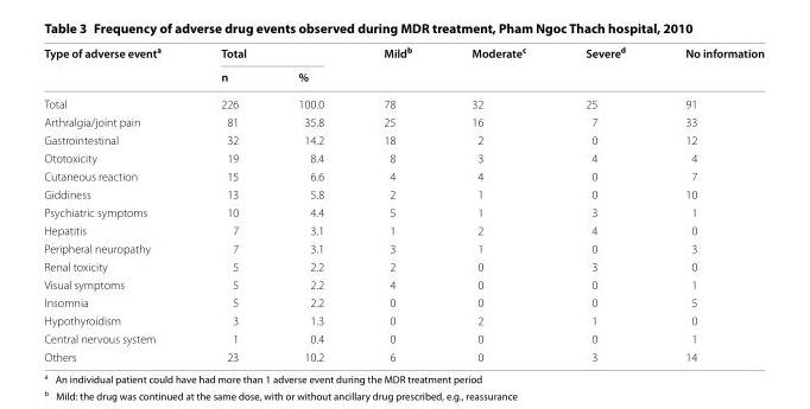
<table><thead><tr><td rowspan="2">Type of adverse event<sup>a</sup></td><td colspan="2">Total</td><td rowspan="2">Mild<sup>b</sup></td><td rowspan="2">Moderate<sup>c</sup></td><td rowspan="2">Severe<sup>d</sup></td><td rowspan="2">No information</td></tr><tr><td>n</td><td>%</td></tr></thead><tbody><tr><td>Total</td><td>226</td><td>100.0</td><td>78</td><td>32</td><td>25</td><td>91</td></tr><tr><td>Arthralgia/joint pain</td><td>81</td><td>35.8</td><td>25</td><td>16</td><td>7</td><td>33</td></tr><tr><td>Gastrointestinal</td><td>32</td><td>14.2</td><td>18</td><td>2</td><td>0</td><td>12</td></tr><tr><td>Ototoxicity</td><td>19</td><td>8.4</td><td>8</td><td>3</td><td>4</td><td>4</td></tr><tr><td>Cutaneous reaction</td><td>15</td><td>6.6</td><td>4</td><td>4</td><td>0</td><td>7</td></tr><tr><td>Giddiness</td><td>13</td><td>5.8</td><td>2</td><td>1</td><td>0</td><td>10</td></tr><tr><td>Psychiatric symptoms</td><td>10</td><td>4.4</td><td>5</td><td>1</td><td>3</td><td>1</td></tr><tr><td>Hepatitis</td><td>7</td><td>3.1</td><td>1</td><td>2</td><td>4</td><td>0</td></tr><tr><td>Peripheral neuropathy</td><td>7</td><td>3.1</td><td>3</td><td>1</td><td>0</td><td>3</td></tr><tr><td>Renal toxicity</td><td>5</td><td>2.2</td><td>2</td><td>0</td><td>3</td><td>0</td></tr><tr><td>Visual symptoms</td><td>5</td><td>2.2</td><td>4</td><td>0</td><td>0</td><td>1</td></tr><tr><td>Insomnia</td><td>5</td><td>2.2</td><td>0</td><td>0</td><td>0</td><td>5</td></tr><tr><td>Hypothyroidism</td><td>3</td><td>1.3</td><td>0</td><td>2</td><td>1</td><td>0</td></tr><tr><td>Central nervous system</td><td>1</td><td>0.4</td><td>0</td><td>0</td><td>0</td><td>1</td></tr><tr><td>Others</td><td>23</td><td>10.2</td><td>6</td><td>0</td><td>3</td><td>14</td></tr></tbody></table>